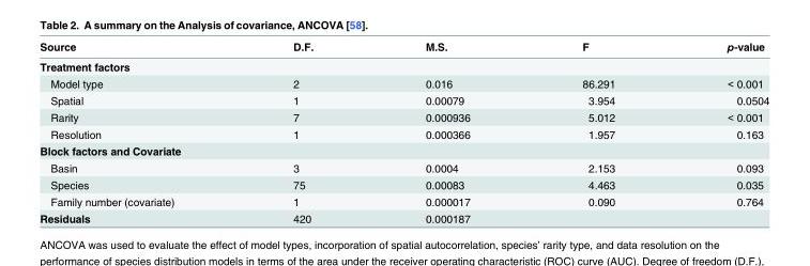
<table><thead><tr><td>Source</td><td>D.F.</td><td>M.S.</td><td>F</td><td>p-value</td></tr></thead><tbody><tr><td colspan="5">Treatment factors</td></tr><tr><td>Model type</td><td>2</td><td>0.016</td><td>86.291</td><td>&lt; 0.001</td></tr><tr><td>Spatial</td><td>1</td><td>0.00079</td><td>3.954</td><td>0.0504</td></tr><tr><td>Rarity</td><td>7</td><td>0.000936</td><td>5.012</td><td>&lt; 0.001</td></tr><tr><td>Resolution</td><td>1</td><td>0.000366</td><td>1.957</td><td>0.163</td></tr><tr><td colspan="5">Block factors and Covariate</td></tr><tr><td>Basin</td><td>3</td><td>0.0004</td><td>2.153</td><td>0.093</td></tr><tr><td>Species</td><td>75</td><td>0.00083</td><td>4.463</td><td>0.035</td></tr><tr><td>Family number (covariate)</td><td>1</td><td>0.000017</td><td>0.090</td><td>0.764</td></tr><tr><td>Residuals</td><td>420</td><td>0.000187</td><td></td><td></td></tr></tbody></table>